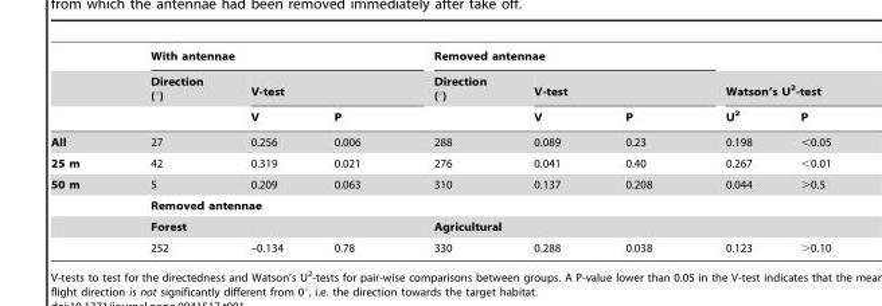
<table><thead><tr><td rowspan="3"></td><td colspan="3">With antennae</td><td colspan="3">Removed antennae</td><td></td><td></td></tr><tr><td rowspan="2">Direction (°)</td><td colspan="2">V-test</td><td rowspan="2">Direction (°)</td><td colspan="2">V-test</td><td colspan="2">Watson’s U<sup>2</sup>-test</td></tr><tr><td>V</td><td>P</td><td>V</td><td>P</td><td>U<sup>2</sup></td><td>P</td></tr></thead><tbody><tr><td>All</td><td>27</td><td>0.256</td><td>0.006</td><td>288</td><td>0.089</td><td>0.23</td><td>0.198</td><td>&lt;0.05</td></tr><tr><td>25 m</td><td>42</td><td>0.319</td><td>0.021</td><td>276</td><td>0.041</td><td>0.40</td><td>0.267</td><td>&lt;0.01</td></tr><tr><td rowspan="4">50 m</td><td>5</td><td>0.209</td><td>0.063</td><td>310</td><td>0.137</td><td>0.208</td><td>0.044</td><td>&gt;0.5</td></tr><tr><td colspan="6">Removed antennae</td><td colspan="2"></td></tr><tr><td colspan="3">Forest</td><td colspan="3">Agricultural</td><td colspan="2"></td></tr><tr><td>252</td><td>–0.134</td><td>0.78</td><td>330</td><td>0.288</td><td>0.038</td><td>0.123</td><td>&gt;0.10</td></tr></tbody></table>